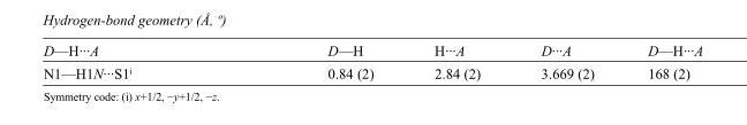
<table><tbody><tr><td>D—H···A</td><td>D—H</td><td>H···A</td><td>D···A</td><td>D—H···A</td></tr><tr><td>N1—H1N···S1<sup>i</sup></td><td>0.84 (2)</td><td>2.84 (2)</td><td>3.669 (2)</td><td>168 (2)</td></tr></tbody></table>